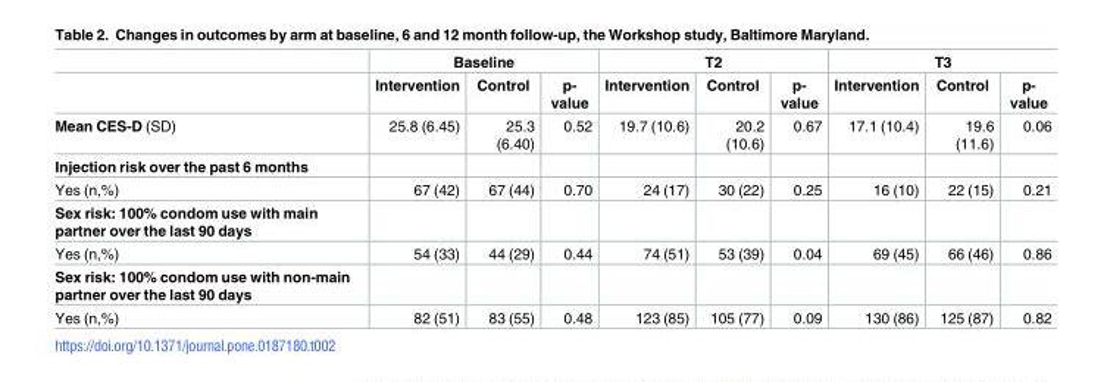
<table><thead><tr><td rowspan="2"></td><td colspan="3">Baseline</td><td colspan="3">T2</td><td colspan="3">T3</td></tr><tr><td>Intervention</td><td>Control</td><td>p- value</td><td>Intervention</td><td>Control</td><td>p- value</td><td>Intervention</td><td>Control</td><td>p- value</td></tr></thead><tbody><tr><td>Mean CES-D (SD)</td><td>25.8 (6.45)</td><td>25.3 (6.40)</td><td>0.52</td><td>19.7 (10.6)</td><td>20.2 (10.6)</td><td>0.67</td><td>17.1 (10.4)</td><td>19.6 (11.6)</td><td>0.06</td></tr><tr><td colspan="10">Injection risk over the past 6 months</td></tr><tr><td>Yes (n,%)</td><td>67 (42)</td><td>67 (44)</td><td>0.70</td><td>24 (17)</td><td>30 (22)</td><td>0.25</td><td>16 (10)</td><td>22 (15)</td><td>0.21</td></tr><tr><td colspan="10">Sex risk: 100% condom use with main partner over the last 90 days</td></tr><tr><td>Yes (n,%)</td><td>54 (33)</td><td>44 (29)</td><td>0.44</td><td>74 (51)</td><td>53 (39)</td><td>0.04</td><td>69 (45)</td><td>66 (46)</td><td>0.86</td></tr><tr><td colspan="10">Sex risk: 100% condom use with non-main partner over the last 90 days</td></tr><tr><td>Yes (n,%)</td><td>82 (51)</td><td>83 (55)</td><td>0.48</td><td>123 (85)</td><td>105 (77)</td><td>0.09</td><td>130 (86)</td><td>125 (87)</td><td>0.82</td></tr></tbody></table>